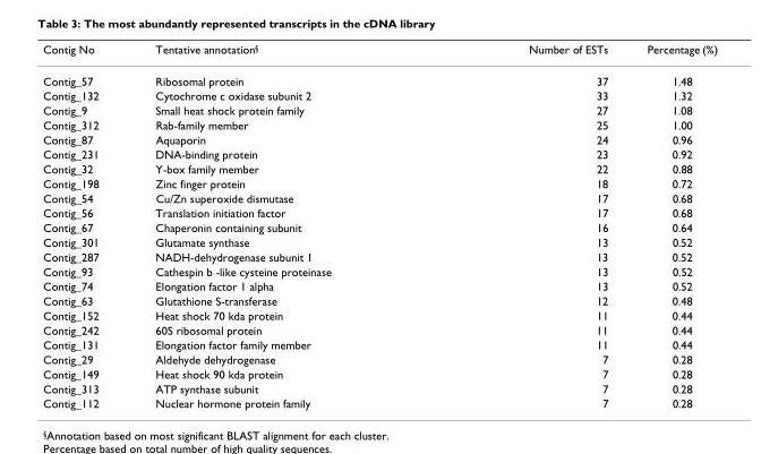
<table><thead><tr><td>Contig No</td><td>Tentative annotation<sup>§</sup></td><td>Number of ESTs</td><td>Percentage (%)</td></tr></thead><tbody><tr><td>Contig_57</td><td>Ribosomal protein</td><td>37</td><td>1.48</td></tr><tr><td>Contig_132</td><td>Cytochrome c oxidase subunit 2</td><td>33</td><td>1.32</td></tr><tr><td>Contig_9</td><td>Small heat shock protein family</td><td>27</td><td>1.08</td></tr><tr><td>Contig_312</td><td>Rab-family member</td><td>25</td><td>1.00</td></tr><tr><td>Contig_87</td><td>Aquaporin</td><td>24</td><td>0.96</td></tr><tr><td>Contig_231</td><td>DNA-binding protein</td><td>23</td><td>0.92</td></tr><tr><td>Contig_32</td><td>Y-box family member</td><td>22</td><td>0.88</td></tr><tr><td>Contig_198</td><td>Zinc finger protein</td><td>18</td><td>0.72</td></tr><tr><td>Contig_54</td><td>Cu/Zn superoxide dismutase</td><td>17</td><td>0.68</td></tr><tr><td>Contig_56</td><td>Translation initiation factor</td><td>17</td><td>0.68</td></tr><tr><td>Contig_67</td><td>Chaperonin containing subunit</td><td>16</td><td>0.64</td></tr><tr><td>Contig_301</td><td>Glutamate synthase</td><td>13</td><td>0.52</td></tr><tr><td>Contig_287</td><td>NADH-dehydrogenase subunit 1</td><td>13</td><td>0.52</td></tr><tr><td>Contig_93</td><td>Cathespin b -like cysteine proteinase</td><td>13</td><td>0.52</td></tr><tr><td>Contig_74</td><td>Elongation factor 1 alpha</td><td>13</td><td>0.52</td></tr><tr><td>Contig_63</td><td>Glutathione S-transferase</td><td>12</td><td>0.48</td></tr><tr><td>Contig_152</td><td>Heat shock 70 kda protein</td><td>11</td><td>0.44</td></tr><tr><td>Contig_242</td><td>60S ribosomal protein</td><td>11</td><td>0.44</td></tr><tr><td>Contig_131</td><td>Elongation factor family member</td><td>11</td><td>0.44</td></tr><tr><td>Contig_29</td><td>Aldehyde dehydrogenase</td><td>7</td><td>0.28</td></tr><tr><td>Contig_149</td><td>Heat shock 90 kda protein</td><td>7</td><td>0.28</td></tr><tr><td>Contig_313</td><td>ATP synthase subunit</td><td>7</td><td>0.28</td></tr><tr><td>Contig_112</td><td>Nuclear hormone protein family</td><td>7</td><td>0.28</td></tr></tbody></table>